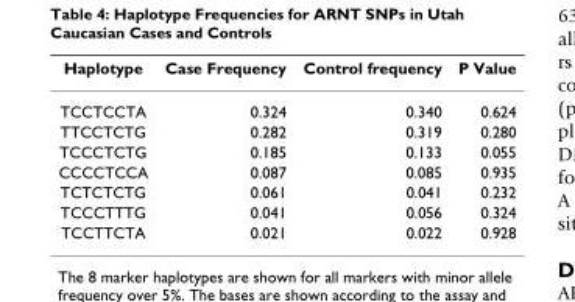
<table><thead><tr><td>Haplotype</td><td>Case Frequency</td><td>Control frequency</td><td>P Value</td></tr></thead><tbody><tr><td>TCCTCCTA</td><td>0.324</td><td>0.340</td><td>0.624</td></tr><tr><td>TTCCTCTG</td><td>0.282</td><td>0.319</td><td>0.280</td></tr><tr><td>TCCCTCTG</td><td>0.185</td><td>0.133</td><td>0.055</td></tr><tr><td>CCCCTCCA</td><td>0.087</td><td>0.085</td><td>0.935</td></tr><tr><td>TCTCTCTG</td><td>0.061</td><td>0.041</td><td>0.232</td></tr><tr><td>TCCCTTTG</td><td>0.041</td><td>0.056</td><td>0.324</td></tr><tr><td>TCCTTCTA</td><td>0.021</td><td>0.022</td><td>0.928</td></tr></tbody></table>